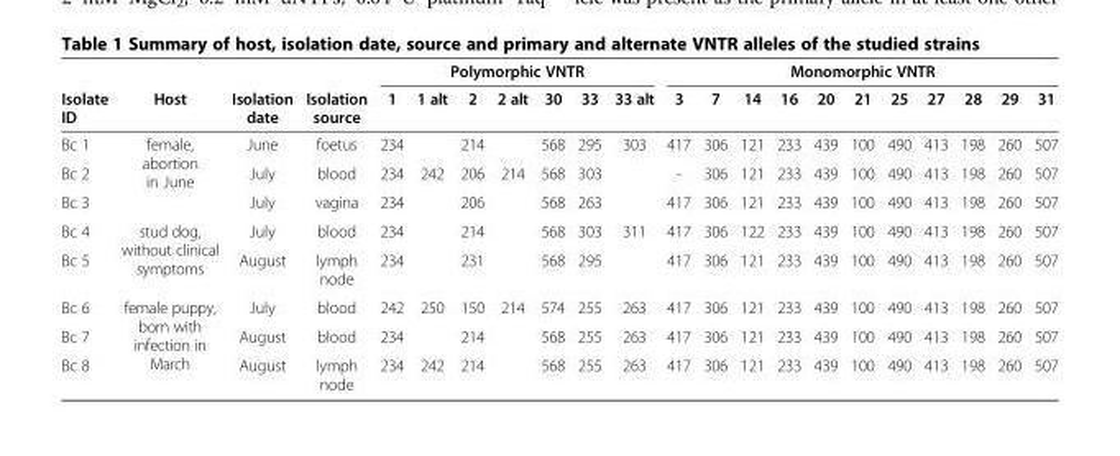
<table><thead><tr><td rowspan="2">Isolate ID</td><td rowspan="2">Host</td><td rowspan="2">Isolation date</td><td rowspan="2">Isolation source</td><td colspan="7">Polymorphic VNTR</td><td colspan="11">Monomorphic VNTR</td></tr><tr><td>1</td><td>1 alt</td><td>2</td><td>2 alt</td><td>30</td><td>33</td><td>33 alt</td><td>3</td><td>7</td><td>14</td><td>16</td><td>20</td><td>21</td><td>25</td><td>27</td><td>28</td><td>29</td><td>31</td></tr></thead><tbody><tr><td>Bc 1</td><td rowspan="3">female, abortion in June</td><td>June</td><td>foetus</td><td>234</td><td></td><td>214</td><td></td><td>568</td><td>295</td><td>303</td><td>417</td><td>306</td><td>121</td><td>233</td><td>439</td><td>100</td><td>490</td><td>413</td><td>198</td><td>260</td><td>507</td></tr><tr><td>Bc 2</td><td>July</td><td>blood</td><td>234</td><td>242</td><td>206</td><td>214</td><td>568</td><td>303</td><td></td><td>-</td><td>306</td><td>121</td><td>233</td><td>439</td><td>100</td><td>490</td><td>413</td><td>198</td><td>260</td><td>507</td></tr><tr><td>Bc 3</td><td>July</td><td>vagina</td><td>234</td><td></td><td>206</td><td></td><td>568</td><td>263</td><td></td><td>417</td><td>306</td><td>121</td><td>233</td><td>439</td><td>100</td><td>490</td><td>413</td><td>198</td><td>260</td><td>507</td></tr><tr><td>Bc 4</td><td rowspan="2">stud dog, without clinical symptoms</td><td>July</td><td>blood</td><td>234</td><td></td><td>214</td><td></td><td>568</td><td>303</td><td>311</td><td>417</td><td>306</td><td>122</td><td>233</td><td>439</td><td>100</td><td>490</td><td>413</td><td>198</td><td>260</td><td>507</td></tr><tr><td>Bc 5</td><td>August</td><td>lymph node</td><td>234</td><td></td><td>231</td><td></td><td>568</td><td>295</td><td></td><td>417</td><td>306</td><td>121</td><td>233</td><td>439</td><td>100</td><td>490</td><td>413</td><td>198</td><td>260</td><td>507</td></tr><tr><td>Bc 6</td><td rowspan="3">female puppy, born with infection in March</td><td>July</td><td>blood</td><td>242</td><td>250</td><td>150</td><td>214</td><td>574</td><td>255</td><td>263</td><td>417</td><td>306</td><td>121</td><td>233</td><td>439</td><td>100</td><td>490</td><td>413</td><td>198</td><td>260</td><td>507</td></tr><tr><td>Bc 7</td><td>August</td><td>blood</td><td>234</td><td></td><td>214</td><td></td><td>568</td><td>255</td><td>263</td><td>417</td><td>306</td><td>121</td><td>233</td><td>439</td><td>100</td><td>490</td><td>413</td><td>198</td><td>260</td><td>507</td></tr><tr><td>Bc 8</td><td>August</td><td>lymph node</td><td>234</td><td>242</td><td>214</td><td></td><td>568</td><td>255</td><td>263</td><td>417</td><td>306</td><td>121</td><td>233</td><td>439</td><td>100</td><td>490</td><td>413</td><td>198</td><td>260</td><td>507</td></tr></tbody></table>